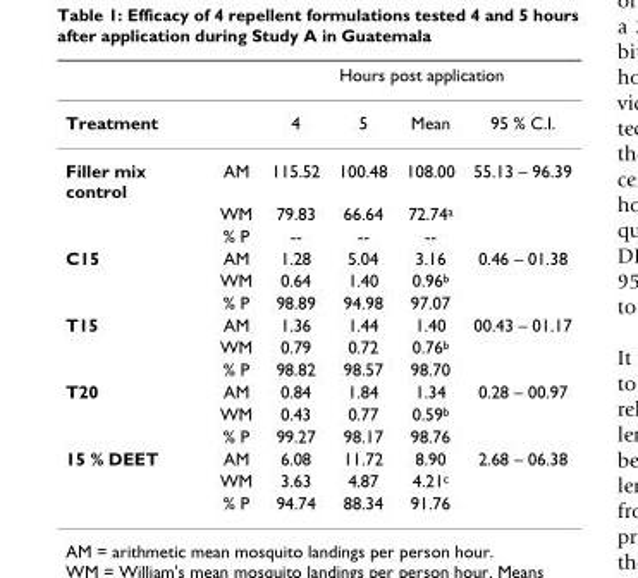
<table><thead><tr><td rowspan="2">Treatment</td><td rowspan="2"></td><td colspan="4">Hours post application</td></tr><tr><td>4</td><td>5</td><td>Mean</td><td>95 % C.I.</td></tr></thead><tbody><tr><td rowspan="3">Filler mix control</td><td>AM</td><td>115.52</td><td>100.48</td><td>108.00</td><td>55.13 – 96.39</td></tr><tr><td>WM</td><td>79.83</td><td>66.64</td><td>72.74<sup>a</sup></td><td></td></tr><tr><td>% P</td><td>--</td><td>--</td><td>--</td><td></td></tr><tr><td rowspan="3">C15</td><td>AM</td><td>1.28</td><td>5.04</td><td>3.16</td><td>0.46 – 01.38</td></tr><tr><td>WM</td><td>0.64</td><td>1.40</td><td>0.96<sup>b</sup></td><td></td></tr><tr><td>% P</td><td>98.89</td><td>94.98</td><td>97.07</td><td></td></tr><tr><td rowspan="3">T15</td><td>AM</td><td>1.36</td><td>1.44</td><td>1.40</td><td>00.43 – 01.17</td></tr><tr><td>WM</td><td>0.79</td><td>0.72</td><td>0.76<sup>b</sup></td><td></td></tr><tr><td>% P</td><td>98.82</td><td>98.57</td><td>98.70</td><td></td></tr><tr><td rowspan="3">T20</td><td>AM</td><td>0.84</td><td>1.84</td><td>1.34</td><td>0.28 – 00.97</td></tr><tr><td>WM</td><td>0.43</td><td>0.77</td><td>0.59<sup>b</sup></td><td></td></tr><tr><td>% P</td><td>99.27</td><td>98.17</td><td>98.76</td><td></td></tr><tr><td rowspan="3">15 % DEET</td><td>AM</td><td>6.08</td><td>11.72</td><td>8.90</td><td>2.68 – 06.38</td></tr><tr><td>WM</td><td>3.63</td><td>4.87</td><td>4.21<sup>c</sup></td><td></td></tr><tr><td>% P</td><td>94.74</td><td>88.34</td><td>91.76</td><td></td></tr></tbody></table>